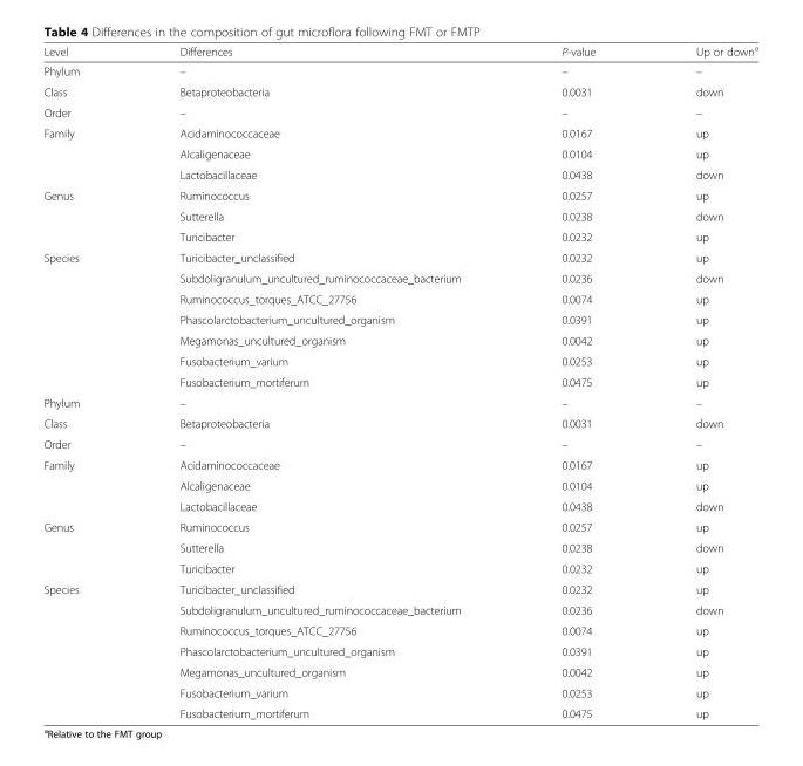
<table><thead><tr><td>Level</td><td>Differences</td><td>P-value</td><td>Up or down<sup>a</sup></td></tr></thead><tbody><tr><td>Phylum</td><td>–</td><td>–</td><td>–</td></tr><tr><td>Class</td><td>Betaproteobacteria</td><td>0.0031</td><td>down</td></tr><tr><td>Order</td><td>–</td><td>–</td><td>–</td></tr><tr><td rowspan="3">Family</td><td>Acidaminococcaceae</td><td>0.0167</td><td>up</td></tr><tr><td>Alcaligenaceae</td><td>0.0104</td><td>up</td></tr><tr><td>Lactobacillaceae</td><td>0.0438</td><td>down</td></tr><tr><td rowspan="3">Genus</td><td>Ruminococcus</td><td>0.0257</td><td>up</td></tr><tr><td>Sutterella</td><td>0.0238</td><td>down</td></tr><tr><td>Turicibacter</td><td>0.0232</td><td>up</td></tr><tr><td rowspan="7">Species</td><td>Turicibacter_unclassified</td><td>0.0232</td><td>up</td></tr><tr><td>Subdoligranulum_uncultured_ruminococcaceae_bacterium</td><td>0.0236</td><td>down</td></tr><tr><td>Ruminococcus_torques_ATCC_27756</td><td>0.0074</td><td>up</td></tr><tr><td>Phascolarctobacterium_uncultured_organism</td><td>0.0391</td><td>up</td></tr><tr><td>Megamonas_uncultured_organism</td><td>0.0042</td><td>up</td></tr><tr><td>Fusobacterium_varium</td><td>0.0253</td><td>up</td></tr><tr><td>Fusobacterium_mortiferum</td><td>0.0475</td><td>up</td></tr><tr><td>Phylum</td><td>–</td><td>–</td><td>–</td></tr><tr><td>Class</td><td>Betaproteobacteria</td><td>0.0031</td><td>down</td></tr><tr><td>Order</td><td>–</td><td>–</td><td>–</td></tr><tr><td rowspan="3">Family</td><td>Acidaminococcaceae</td><td>0.0167</td><td>up</td></tr><tr><td>Alcaligenaceae</td><td>0.0104</td><td>up</td></tr><tr><td>Lactobacillaceae</td><td>0.0438</td><td>down</td></tr><tr><td rowspan="3">Genus</td><td>Ruminococcus</td><td>0.0257</td><td>up</td></tr><tr><td>Sutterella</td><td>0.0238</td><td>down</td></tr><tr><td>Turicibacter</td><td>0.0232</td><td>up</td></tr><tr><td rowspan="7">Species</td><td>Turicibacter_unclassified</td><td>0.0232</td><td>up</td></tr><tr><td>Subdoligranulum_uncultured_ruminococcaceae_bacterium</td><td>0.0236</td><td>down</td></tr><tr><td>Ruminococcus_torques_ATCC_27756</td><td>0.0074</td><td>up</td></tr><tr><td>Phascolarctobacterium_uncultured_organism</td><td>0.0391</td><td>up</td></tr><tr><td>Megamonas_uncultured_organism</td><td>0.0042</td><td>up</td></tr><tr><td>Fusobacterium_varium</td><td>0.0253</td><td>up</td></tr><tr><td>Fusobacterium_mortiferum</td><td>0.0475</td><td>up</td></tr></tbody></table>